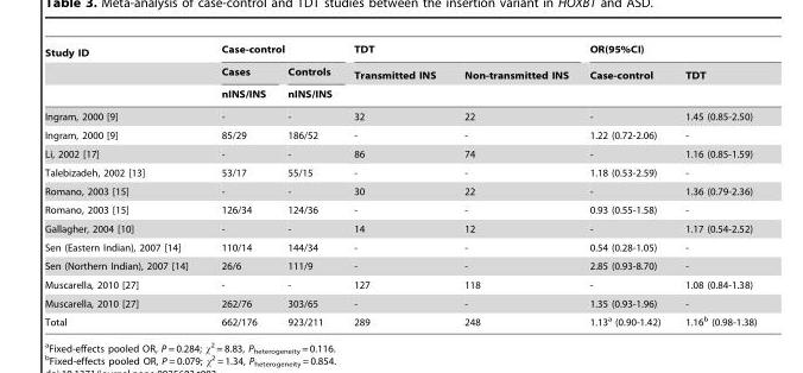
<table><thead><tr><td rowspan="3">Study ID</td><td colspan="2">Case-control</td><td colspan="2">TDT</td><td colspan="2">OR(95%CI)</td></tr><tr><td rowspan="2">Cases nINS/INS</td><td rowspan="2">Controls nINS/INS</td><td rowspan="2">Transmitted INS</td><td rowspan="2">Non-transmitted INS</td><td rowspan="2">Case-control</td><td rowspan="2">TDT</td></tr><tr></tr></thead><tbody><tr><td>Ingram, 2000 [9]</td><td>-</td><td>-</td><td>32</td><td>22</td><td>-</td><td>1.45 (0.85-2.50)</td></tr><tr><td>Ingram, 2000 [9]</td><td>85/29</td><td>186/52</td><td>-</td><td>-</td><td>1.22 (0.72-2.06)</td><td>-</td></tr><tr><td>Li, 2002 [17]</td><td>-</td><td>-</td><td>86</td><td>74</td><td>-</td><td>1.16 (0.85-1.59)</td></tr><tr><td>Talebizadeh, 2002 [13]</td><td>53/17</td><td>55/15</td><td>-</td><td>-</td><td>1.18 (0.53-2.59)</td><td>-</td></tr><tr><td>Romano, 2003 [15]</td><td>-</td><td>-</td><td>30</td><td>22</td><td>-</td><td>1.36 (0.79-2.36)</td></tr><tr><td>Romano, 2003 [15]</td><td>126/34</td><td>124/36</td><td>-</td><td>-</td><td>0.93 (0.55-1.58)</td><td>-</td></tr><tr><td>Gallagher, 2004 [10]</td><td>-</td><td>-</td><td>14</td><td>12</td><td>-</td><td>1.17 (0.54-2.52)</td></tr><tr><td>Sen (Eastern Indian), 2007 [14]</td><td>110/14</td><td>144/34</td><td>-</td><td>-</td><td>0.54 (0.28-1.05)</td><td>-</td></tr><tr><td>Sen (Northern Indian), 2007 [14]</td><td>26/6</td><td>111/9</td><td>-</td><td>-</td><td>2.85 (0.93-8.70)</td><td>-</td></tr><tr><td>Muscarella, 2010 [27]</td><td>-</td><td>-</td><td>127</td><td>118</td><td>-</td><td>1.08 (0.84-1.38)</td></tr><tr><td>Muscarella, 2010 [27]</td><td>262/76</td><td>303/65</td><td>-</td><td>-</td><td>1.35 (0.93-1.96)</td><td>-</td></tr><tr><td>Total</td><td>662/176</td><td>923/211</td><td>289</td><td>248</td><td>1.13<sup>a</sup> (0.90-1.42)</td><td>1.16<sup>b</sup> (0.98-1.38)</td></tr></tbody></table>